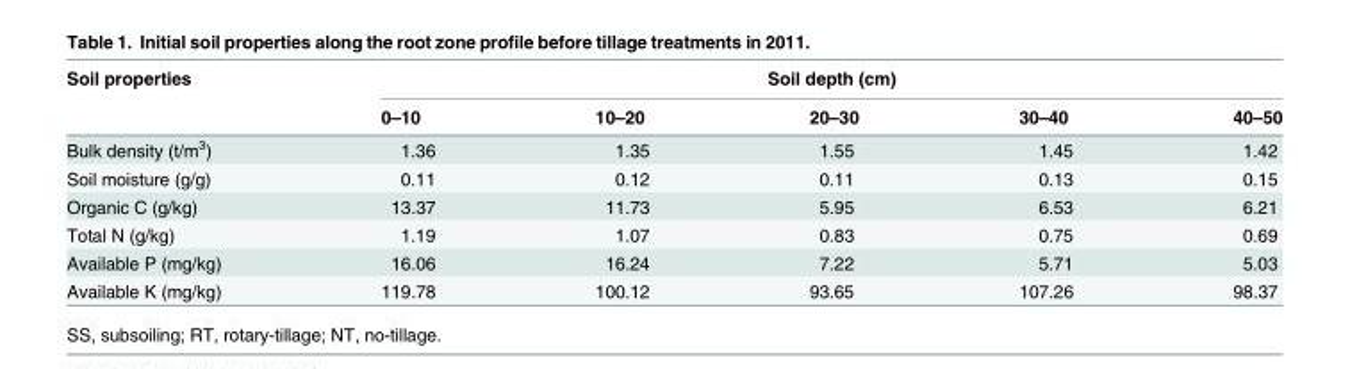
<table><thead><tr><td rowspan="2">Soil properties</td><td colspan="5">Soil depth (cm)</td></tr><tr><td>0–10</td><td>10–20</td><td>20–30</td><td>30–40</td><td>40–50</td></tr></thead><tbody><tr><td>Bulk density (t/m<sup>3</sup>)</td><td>1.36</td><td>1.35</td><td>1.55</td><td>1.45</td><td>1.42</td></tr><tr><td>Soil moisture (g/g)</td><td>0.11</td><td>0.12</td><td>0.11</td><td>0.13</td><td>0.15</td></tr><tr><td>Organic C (g/kg)</td><td>13.37</td><td>11.73</td><td>5.95</td><td>6.53</td><td>6.21</td></tr><tr><td>Total N (g/kg)</td><td>1.19</td><td>1.07</td><td>0.83</td><td>0.75</td><td>0.69</td></tr><tr><td>Available P (mg/kg)</td><td>16.06</td><td>16.24</td><td>7.22</td><td>5.71</td><td>5.03</td></tr><tr><td>Available K (mg/kg)</td><td>119.78</td><td>100.12</td><td>93.65</td><td>107.26</td><td>98.37</td></tr></tbody></table>